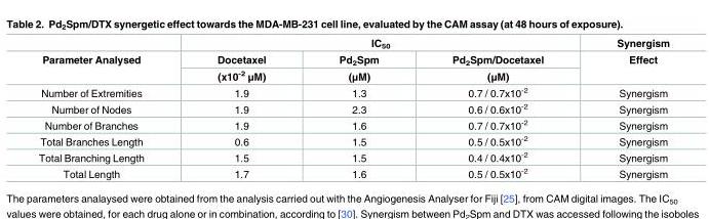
<table><thead><tr><td rowspan="3">Parameter Analysed</td><td colspan="3">IC<sub>50</sub></td><td rowspan="3">Synergism Effect</td></tr><tr><td rowspan="2">Docetaxel (x10<sup>-2</sup> μM)</td><td rowspan="2">Pd<sub>2</sub>Spm (μM)</td><td rowspan="2">Pd<sub>2</sub>Spm/Docetaxel (μM)</td></tr><tr></tr></thead><tbody><tr><td>Number of Extremities</td><td>1.9</td><td>1.3</td><td>0.7 / 0.7x10<sup>-2</sup></td><td>Synergism</td></tr><tr><td>Number of Nodes</td><td>1.9</td><td>2.3</td><td>0.6 / 0.6x10<sup>-2</sup></td><td>Synergism</td></tr><tr><td>Number of Branches</td><td>1.9</td><td>1.6</td><td>0.7 / 0.7x10<sup>-2</sup></td><td>Synergism</td></tr><tr><td>Total Branches Length</td><td>0.6</td><td>1.5</td><td>0.5 / 0.5x10<sup>-2</sup></td><td>Synergism</td></tr><tr><td>Total Branching Length</td><td>1.5</td><td>1.5</td><td>0.4 / 0.4x10<sup>-2</sup></td><td>Synergism</td></tr><tr><td>Total Length</td><td>1.7</td><td>1.6</td><td>0.5 / 0.5x10<sup>-2</sup></td><td>Synergism</td></tr></tbody></table>